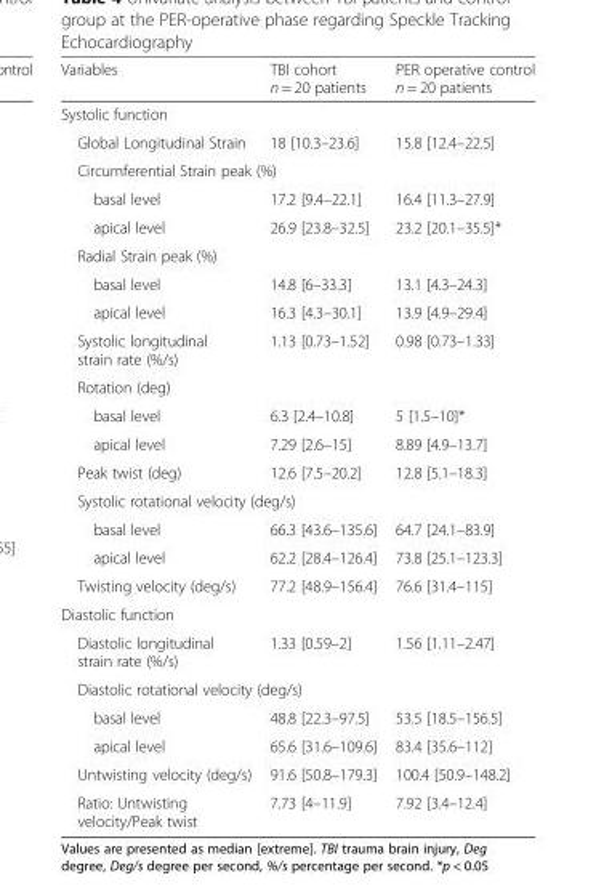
<table><thead><tr><td>Variables</td><td>TBI cohort n = 20 patients</td><td>PER operative control n = 20 patients</td></tr></thead><tbody><tr><td colspan="3">Systolic function</td></tr><tr><td>Global Longitudinal Strain</td><td>18 [10.3–23.6]</td><td>15.8 [12.4–22.5]</td></tr><tr><td colspan="3">Circumferential Strain peak (%)</td></tr><tr><td>basal level</td><td>17.2 [9.4–22.1]</td><td>16.4 [11.3–27.9]</td></tr><tr><td>apical level</td><td>26.9 [23.8–32.5]</td><td>23.2 [20.1–35.5]*</td></tr><tr><td colspan="3">Radial Strain peak (%)</td></tr><tr><td>basal level</td><td>14.8 [6–33.3]</td><td>13.1 [4.3–24.3]</td></tr><tr><td>apical level</td><td>16.3 [4.3–30.1]</td><td>13.9 [4.9–29.4]</td></tr><tr><td>Systolic longitudinal strain rate (%/s)</td><td>1.13 [0.73–1.52]</td><td>0.98 [0.73–1.33]</td></tr><tr><td colspan="3">Rotation (deg)</td></tr><tr><td>basal level</td><td>6.3 [2.4–10.8]</td><td>5 [1.5–10]*</td></tr><tr><td>apical level</td><td>7.29 [2.6–15]</td><td>8.89 [4.9–13.7]</td></tr><tr><td>Peak twist (deg)</td><td>12.6 [7.5–20.2]</td><td>12.8 [5.1–18.3]</td></tr><tr><td colspan="3">Systolic rotational velocity (deg/s)</td></tr><tr><td>basal level</td><td>66.3 [43.6–135.6]</td><td>64.7 [24.1–83.9]</td></tr><tr><td>apical level</td><td>62.2 [28.4–126.4]</td><td>73.8 [25.1–123.3]</td></tr><tr><td>Twisting velocity (deg/s)</td><td>77.2 [48.9–156.4]</td><td>76.6 [31.4–115]</td></tr><tr><td colspan="3">Diastolic function</td></tr><tr><td>Diastolic longitudinal strain rate (%/s)</td><td>1.33 [0.59–2]</td><td>1.56 [1.11–2.47]</td></tr><tr><td colspan="3">Diastolic rotational velocity (deg/s)</td></tr><tr><td>basal level</td><td>48.8 [22.3–97.5]</td><td>53.5 [18.5–156.5]</td></tr><tr><td>apical level</td><td>65.6 [31.6–109.6]</td><td>83.4 [35.6–112]</td></tr><tr><td>Untwisting velocity (deg/s)</td><td>91.6 [50.8–179.3]</td><td>100.4 [50.9–148.2]</td></tr><tr><td>Ratio: Untwisting velocity/Peak twist</td><td>7.73 [4–11.9]</td><td>7.92 [3.4–12.4]</td></tr></tbody></table>